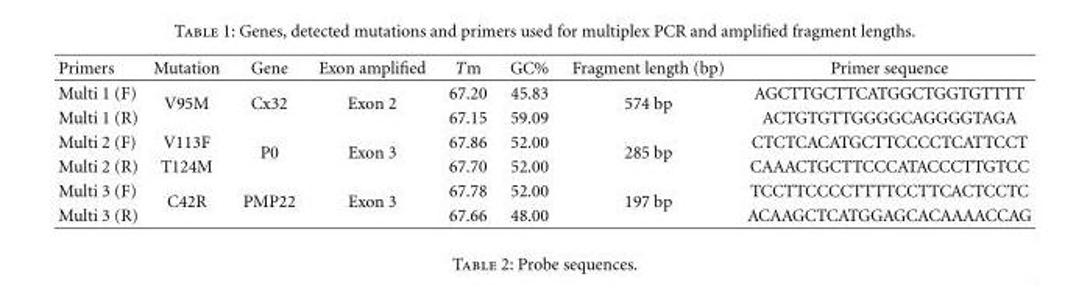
<table><thead><tr><td>Primers</td><td>Mutation</td><td>Gene</td><td>Exon amplified</td><td>Tm</td><td>GC%</td><td>Fragment length (bp)</td><td>Primer sequence</td></tr></thead><tbody><tr><td>Multi 1 (F)</td><td rowspan="2">V95M</td><td rowspan="2">Cx32</td><td rowspan="2">Exon 2</td><td>67.20</td><td>45.83</td><td rowspan="2">574 bp</td><td>AGCTTGCTTCATGGCTGGTGTTTT</td></tr><tr><td>Multi 1 (R)</td><td>67.15</td><td>59.09</td><td>ACTGTGTTGGGGCAGGGGTAGA</td></tr><tr><td>Multi 2 (F)</td><td>V113F</td><td rowspan="2">P0</td><td rowspan="2">Exon 3</td><td>67.86</td><td>52.00</td><td rowspan="2">285 bp</td><td>CTCTCACATGCTTCCCCTCATTCCT</td></tr><tr><td>Multi 2 (R)</td><td>T124M</td><td>67.70</td><td>52.00</td><td>CAAACTGCTTCCCATACCCTTGTCC</td></tr><tr><td>Multi 3 (F)</td><td rowspan="2">C42R</td><td rowspan="2">PMP22</td><td rowspan="2">Exon 3</td><td>67.78</td><td>52.00</td><td rowspan="2">197 bp</td><td>TCCTTCCCCTTTTCCTTCACTCCTC</td></tr><tr><td>Multi 3 (R)</td><td>67.66</td><td>48.00</td><td>ACAAGCTCATGGAGCACAAAACCAG</td></tr></tbody></table>